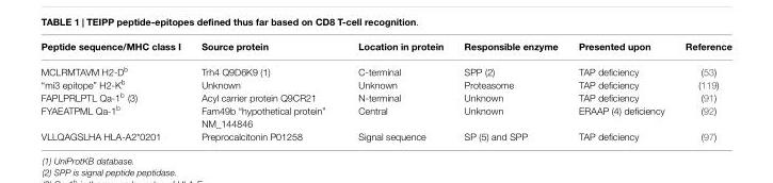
<table><thead><tr><td>Peptide sequence/MHC class I</td><td>Source protein</td><td>Location in protein</td><td>Responsible enzyme</td><td>Presented upon</td><td>Reference</td></tr></thead><tbody><tr><td>MCLRMTAVM H2-D<sup>b</sup></td><td>Trh4 Q9D6K9 (1)</td><td>C-terminal</td><td>SPP (2)</td><td>TAP deficiency</td><td>(53)</td></tr><tr><td>“mi3 epitope” H2-K<sup>b</sup></td><td>Unknown</td><td>Unknown</td><td>Proteasome</td><td>TAP deficiency</td><td>(119)</td></tr><tr><td>FAPLPRLPTL Qa-1<sup>b</sup> (3)</td><td>Acyl carrier protein Q9CR21</td><td>N-terminal</td><td>Unknown</td><td>TAP deficiency</td><td>(91)</td></tr><tr><td>FYAEATPML Qa-1<sup>b</sup></td><td>Fam49b “hypothetical protein” NM_144846</td><td>Central</td><td>Unknown</td><td>ERAAP (4) deficiency</td><td>(92)</td></tr><tr><td>VLLQAGSLHA HLA-A2*0201</td><td>Preprocalcitonin P01258</td><td>Signal sequence</td><td>SP (5) and SPP</td><td>TAP deficiency</td><td>(97)</td></tr></tbody></table>